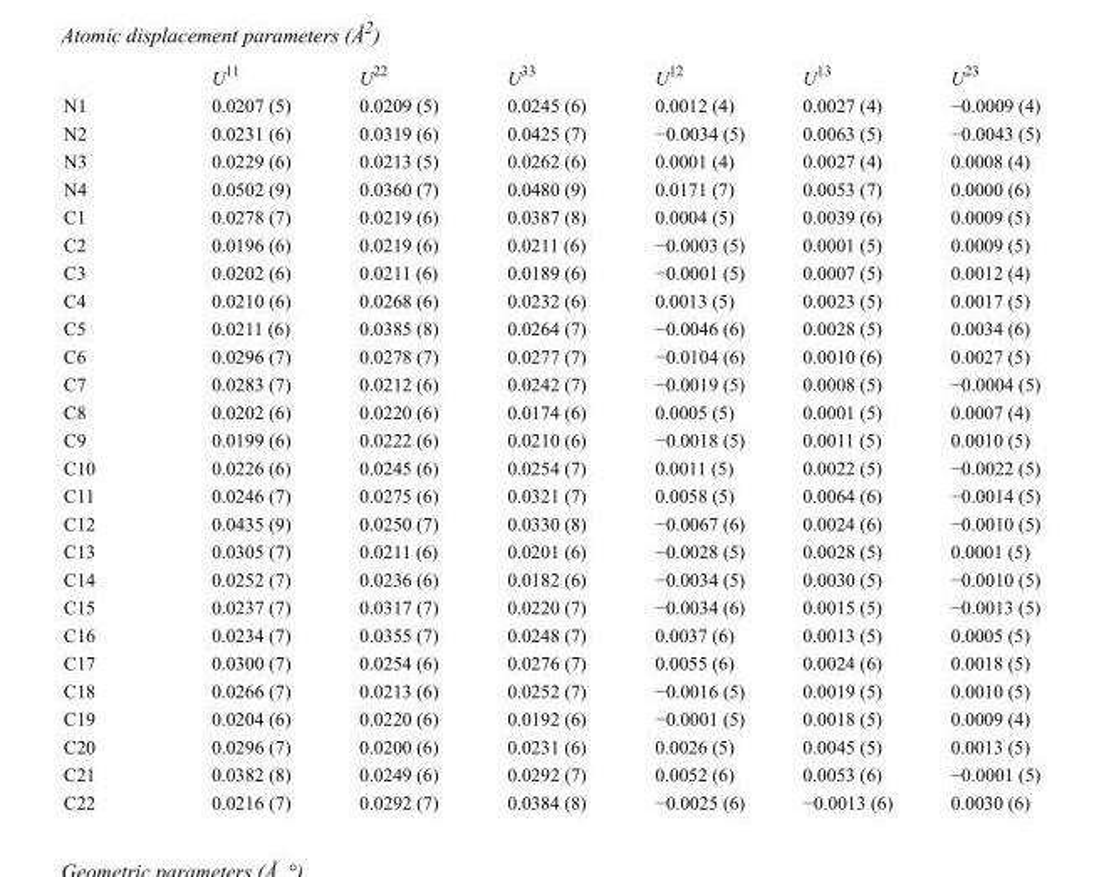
<table><thead><tr><td></td><td>U<sup>11</sup></td><td>U<sup>22</sup></td><td>U<sup>33</sup></td><td>U<sup>12</sup></td><td>U<sup>13</sup></td><td>U<sup>23</sup></td></tr></thead><tbody><tr><td>N1</td><td>0.0207 (5)</td><td>0.0209 (5)</td><td>0.0245 (6)</td><td>0.0012 (4)</td><td>0.0027 (4)</td><td>−0.0009 (4)</td></tr><tr><td>N2</td><td>0.0231 (6)</td><td>0.0319 (6)</td><td>0.0425 (7)</td><td>−0.0034 (5)</td><td>0.0063 (5)</td><td>−0.0043 (5)</td></tr><tr><td>N3</td><td>0.0229 (6)</td><td>0.0213 (5)</td><td>0.0262 (6)</td><td>0.0001 (4)</td><td>0.0027 (4)</td><td>0.0008 (4)</td></tr><tr><td>N4</td><td>0.0502 (9)</td><td>0.0360 (7)</td><td>0.0480 (9)</td><td>0.0171 (7)</td><td>0.0053 (7)</td><td>0.0000 (6)</td></tr><tr><td>C1</td><td>0.0278 (7)</td><td>0.0219 (6)</td><td>0.0387 (8)</td><td>0.0004 (5)</td><td>0.0039 (6)</td><td>0.0009 (5)</td></tr><tr><td>C2</td><td>0.0196 (6)</td><td>0.0219 (6)</td><td>0.0211 (6)</td><td>−0.0003 (5)</td><td>0.0001 (5)</td><td>0.0009 (5)</td></tr><tr><td>C3</td><td>0.0202 (6)</td><td>0.0211 (6)</td><td>0.0189 (6)</td><td>−0.0001 (5)</td><td>0.0007 (5)</td><td>0.0012 (4)</td></tr><tr><td>C4</td><td>0.0210 (6)</td><td>0.0268 (6)</td><td>0.0232 (6)</td><td>0.0013 (5)</td><td>0.0023 (5)</td><td>0.0017 (5)</td></tr><tr><td>C5</td><td>0.0211 (6)</td><td>0.0385 (8)</td><td>0.0264 (7)</td><td>−0.0046 (6)</td><td>0.0028 (5)</td><td>0.0034 (6)</td></tr><tr><td>C6</td><td>0.0296 (7)</td><td>0.0278 (7)</td><td>0.0277 (7)</td><td>−0.0104 (6)</td><td>0.0010 (6)</td><td>0.0027 (5)</td></tr><tr><td>C7</td><td>0.0283 (7)</td><td>0.0212 (6)</td><td>0.0242 (7)</td><td>−0.0019 (5)</td><td>0.0008 (5)</td><td>−0.0004 (5)</td></tr><tr><td>C8</td><td>0.0202 (6)</td><td>0.0220 (6)</td><td>0.0174 (6)</td><td>0.0005 (5)</td><td>0.0001 (5)</td><td>0.0007 (4)</td></tr><tr><td>C9</td><td>0.0199 (6)</td><td>0.0222 (6)</td><td>0.0210 (6)</td><td>−0.0018 (5)</td><td>0.0011 (5)</td><td>0.0010 (5)</td></tr><tr><td>C10</td><td>0.0226 (6)</td><td>0.0245 (6)</td><td>0.0254 (7)</td><td>0.0011 (5)</td><td>0.0022 (5)</td><td>−0.0022 (5)</td></tr><tr><td>C11</td><td>0.0246 (7)</td><td>0.0275 (6)</td><td>0.0321 (7)</td><td>0.0058 (5)</td><td>0.0064 (6)</td><td>−0.0014 (5)</td></tr><tr><td>C12</td><td>0.0435 (9)</td><td>0.0250 (7)</td><td>0.0330 (8)</td><td>−0.0067 (6)</td><td>0.0024 (6)</td><td>−0.0010 (5)</td></tr><tr><td>C13</td><td>0.0305 (7)</td><td>0.0211 (6)</td><td>0.0201 (6)</td><td>−0.0028 (5)</td><td>0.0028 (5)</td><td>0.0001 (5)</td></tr><tr><td>C14</td><td>0.0252 (7)</td><td>0.0236 (6)</td><td>0.0182 (6)</td><td>−0.0034 (5)</td><td>0.0030 (5)</td><td>−0.0010 (5)</td></tr><tr><td>C15</td><td>0.0237 (7)</td><td>0.0317 (7)</td><td>0.0220 (7)</td><td>−0.0034 (6)</td><td>0.0015 (5)</td><td>−0.0013 (5)</td></tr><tr><td>C16</td><td>0.0234 (7)</td><td>0.0355 (7)</td><td>0.0248 (7)</td><td>0.0037 (6)</td><td>0.0013 (5)</td><td>0.0005 (5)</td></tr><tr><td>C17</td><td>0.0300 (7)</td><td>0.0254 (6)</td><td>0.0276 (7)</td><td>0.0055 (6)</td><td>0.0024 (6)</td><td>0.0018 (5)</td></tr><tr><td>C18</td><td>0.0266 (7)</td><td>0.0213 (6)</td><td>0.0252 (7)</td><td>−0.0016 (5)</td><td>0.0019 (5)</td><td>0.0010 (5)</td></tr><tr><td>C19</td><td>0.0204 (6)</td><td>0.0220 (6)</td><td>0.0192 (6)</td><td>−0.0001 (5)</td><td>0.0018 (5)</td><td>0.0009 (4)</td></tr><tr><td>C20</td><td>0.0296 (7)</td><td>0.0200 (6)</td><td>0.0231 (6)</td><td>0.0026 (5)</td><td>0.0045 (5)</td><td>0.0013 (5)</td></tr><tr><td>C21</td><td>0.0382 (8)</td><td>0.0249 (6)</td><td>0.0292 (7)</td><td>0.0052 (6)</td><td>0.0053 (6)</td><td>−0.0001 (5)</td></tr><tr><td>C22</td><td>0.0216 (7)</td><td>0.0292 (7)</td><td>0.0384 (8)</td><td>−0.0025 (6)</td><td>−0.0013 (6)</td><td>0.0030 (6)</td></tr></tbody></table>